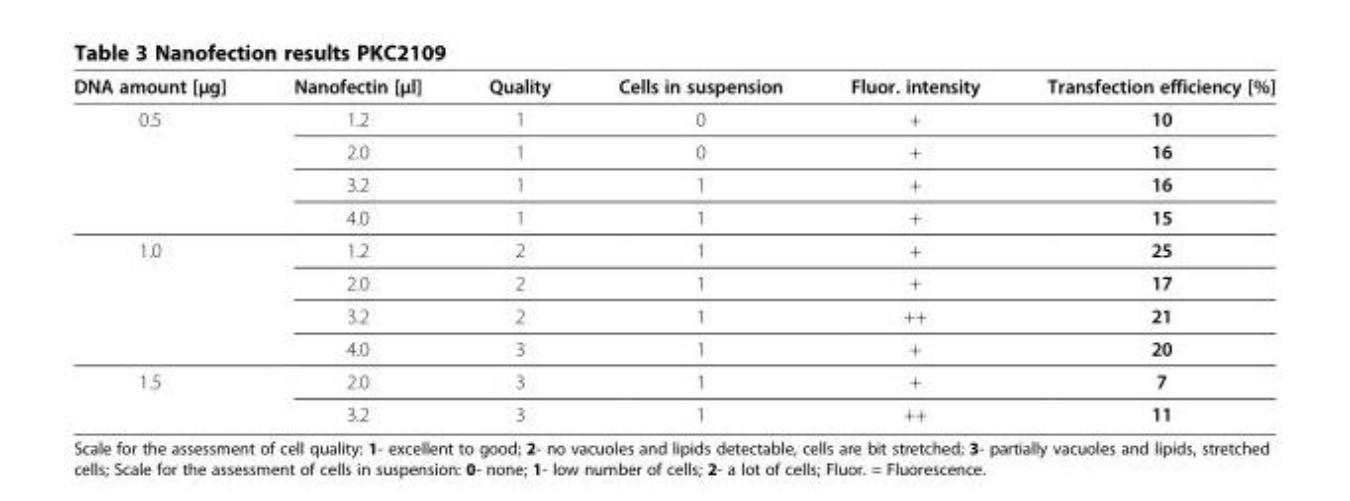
<table><thead><tr><td>DNA amount [μg]</td><td>Nanofectin [μl]</td><td>Quality</td><td>Cells in suspension</td><td>Fluor. intensity</td><td>Transfection efficiency [%]</td></tr></thead><tbody><tr><td rowspan="4">0.5</td><td>1.2</td><td>1</td><td>0</td><td>+</td><td>10</td></tr><tr><td>2.0</td><td>1</td><td>0</td><td>+</td><td>16</td></tr><tr><td>3.2</td><td>1</td><td>1</td><td>+</td><td>16</td></tr><tr><td>4.0</td><td>1</td><td>1</td><td>+</td><td>15</td></tr><tr><td rowspan="4">1.0</td><td>1.2</td><td>2</td><td>1</td><td>+</td><td>25</td></tr><tr><td>2.0</td><td>2</td><td>1</td><td>+</td><td>17</td></tr><tr><td>3.2</td><td>2</td><td>1</td><td>++</td><td>21</td></tr><tr><td>4.0</td><td>3</td><td>1</td><td>+</td><td>20</td></tr><tr><td rowspan="2">1.5</td><td>2.0</td><td>3</td><td>1</td><td>+</td><td>7</td></tr><tr><td>3.2</td><td>3</td><td>1</td><td>++</td><td>11</td></tr></tbody></table>